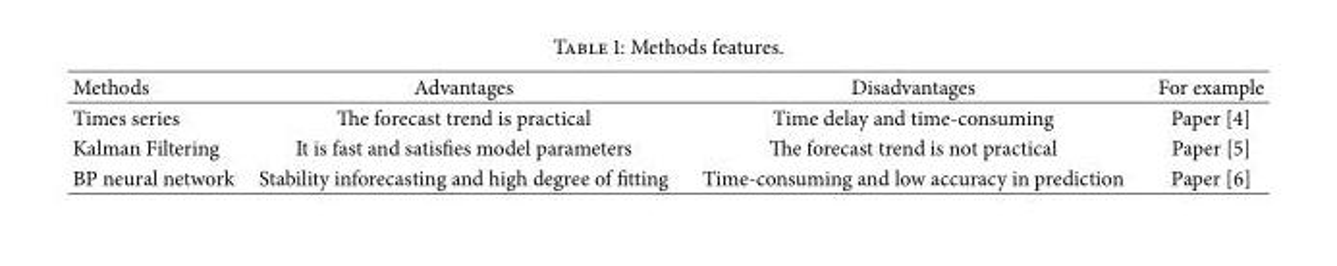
<table><thead><tr><td>Methods</td><td>Advantages</td><td>Disadvantages</td><td>For example</td></tr></thead><tbody><tr><td>Times series</td><td>The forecast trend is practical</td><td>Time delay and time-consuming</td><td>Paper [4]</td></tr><tr><td>Kalman Filtering</td><td>It is fast and satisfies model parameters</td><td>The forecast trend is not practical</td><td>Paper [5]</td></tr><tr><td>BP neural network</td><td>Stability inforecasting and high degree of fitting</td><td>Time-consuming and low accuracy in prediction</td><td>Paper [6]</td></tr></tbody></table>